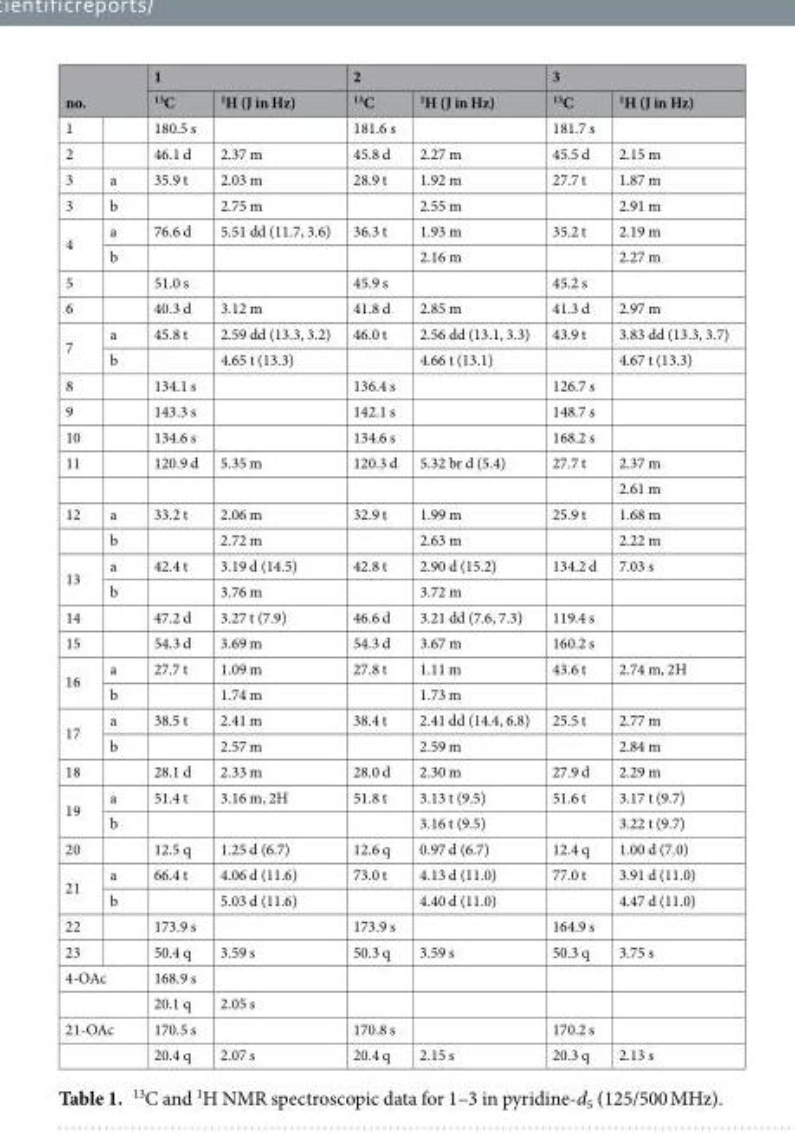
<table><thead><tr><td rowspan="2" colspan="2">no.</td><td colspan="2">1</td><td colspan="2">2</td><td colspan="2">3</td></tr><tr><td rowspan="2"><sup>13</sup>C 180.5 s</td><td rowspan="2"><sup>1</sup>H (J in Hz)</td><td rowspan="2"><sup>13</sup>C 181.6 s</td><td rowspan="2"><sup>1</sup>H (J in Hz)</td><td rowspan="2"><sup>13</sup>C 181.7 s</td><td rowspan="2"><sup>1</sup>H (J in Hz)</td></tr><tr><td>1</td><td></td></tr></thead><tbody><tr><td>2</td><td></td><td>46.1 d</td><td>2.37 m</td><td>45.8 d</td><td>2.27 m</td><td>45.5 d</td><td>2.15 m</td></tr><tr><td>3</td><td>a</td><td>35.9 t</td><td>2.03 m</td><td>28.9 t</td><td>1.92 m</td><td>27.7 t</td><td>1.87 m</td></tr><tr><td>3</td><td>b</td><td></td><td>2.75 m</td><td></td><td>2.55 m</td><td></td><td>2.91 m</td></tr><tr><td rowspan="2">4</td><td>a</td><td>76.6 d</td><td>5.51 dd (11.7, 3.6)</td><td>36.3 t</td><td>1.93 m</td><td>35.2 t</td><td>2.19 m</td></tr><tr><td>b</td><td></td><td></td><td></td><td>2.16 m</td><td></td><td>2.27 m</td></tr><tr><td>5</td><td></td><td>51.0 s</td><td></td><td>45.9 s</td><td></td><td>45.2 s</td><td></td></tr><tr><td>6</td><td></td><td>40.3 d</td><td>3.12 m</td><td>41.8 d</td><td>2.85 m</td><td>41.3 d</td><td>2.97 m</td></tr><tr><td rowspan="2">7</td><td>a</td><td>45.8 t</td><td>2.59 dd (13.3, 3.2)</td><td>46.0 t</td><td>2.56 dd (13.1, 3.3)</td><td>43.9 t</td><td>3.83 dd (13.3, 3.7)</td></tr><tr><td>b</td><td></td><td>4.65 t (13.3)</td><td></td><td>4.66 t (13.1)</td><td></td><td>4.67 t (13.3)</td></tr><tr><td>8</td><td></td><td>134.1 s</td><td></td><td>136.4 s</td><td></td><td>126.7 s</td><td></td></tr><tr><td>9</td><td></td><td>143.3 s</td><td></td><td>142.1 s</td><td></td><td>148.7 s</td><td></td></tr><tr><td>10</td><td></td><td>134.6 s</td><td></td><td>134.6 s</td><td></td><td>168.2 s</td><td></td></tr><tr><td rowspan="2">11</td><td></td><td>120.9 d</td><td>5.35 m</td><td>120.3 d</td><td>5.32 br d (5.4)</td><td>27.7 t</td><td>2.37 m</td></tr><tr><td></td><td></td><td></td><td></td><td></td><td></td><td>2.61 m</td></tr><tr><td rowspan="2">12</td><td>a</td><td>33.2 t</td><td>2.06 m</td><td>32.9 t</td><td>1.99 m</td><td>25.9 t</td><td>1.68 m</td></tr><tr><td>b</td><td></td><td>2.72 m</td><td></td><td>2.63 m</td><td></td><td>2.22 m</td></tr><tr><td rowspan="2">13</td><td>a</td><td>42.4 t</td><td>3.19 d (14.5)</td><td>42.8 t</td><td>2.90 d (15.2)</td><td>134.2 d</td><td>7.03 s</td></tr><tr><td>b</td><td></td><td>3.76 m</td><td></td><td>3.72 m</td><td></td><td></td></tr><tr><td>14</td><td></td><td>47.2 d</td><td>3.27 t (7.9)</td><td>46.6 d</td><td>3.21 dd (7.6, 7.3)</td><td>119.4 s</td><td></td></tr><tr><td>15</td><td></td><td>54.3 d</td><td>3.69 m</td><td>54.3 d</td><td>3.67 m</td><td>160.2 s</td><td></td></tr><tr><td rowspan="2">16</td><td>a</td><td>27.7 t</td><td>1.09 m</td><td>27.8 t</td><td>1.11 m</td><td>43.6 t</td><td>2.74 m, 2H</td></tr><tr><td>b</td><td></td><td>1.74 m</td><td></td><td>1.73 m</td><td></td><td></td></tr><tr><td rowspan="2">17</td><td>a</td><td>38.5 t</td><td>2.41 m</td><td>38.4 t</td><td>2.41 dd (14.4, 6.8)</td><td>25.5 t</td><td>2.77 m</td></tr><tr><td>b</td><td></td><td>2.57 m</td><td></td><td>2.59 m</td><td></td><td>2.84 m</td></tr><tr><td>18</td><td></td><td>28.1 d</td><td>2.33 m</td><td>28.0 d</td><td>2.30 m</td><td>27.9 d</td><td>2.29 m</td></tr><tr><td rowspan="2">19</td><td>a</td><td>51.4 t</td><td>3.16 m, 2H</td><td>51.8 t</td><td>3.13 t (9.5)</td><td>51.6 t</td><td>3.17 t (9.7)</td></tr><tr><td>b</td><td></td><td></td><td></td><td>3.16 t (9.5)</td><td></td><td>3.22 t (9.7)</td></tr><tr><td>20</td><td></td><td>12.5 q</td><td>1.25 d (6.7)</td><td>12.6 q</td><td>0.97 d (6.7)</td><td>12.4 q</td><td>1.00 d (7.0)</td></tr><tr><td rowspan="2">21</td><td>a</td><td>66.4 t</td><td>4.06 d (11.6)</td><td>73.0 t</td><td>4.13 d (11.0)</td><td>77.0 t</td><td>3.91 d (11.0)</td></tr><tr><td>b</td><td></td><td>5.03 d (11.6)</td><td></td><td>4.40 d (11.0)</td><td></td><td>4.47 d (11.0)</td></tr><tr><td>22</td><td></td><td>173.9 s</td><td></td><td>173.9 s</td><td></td><td>164.9 s</td><td></td></tr><tr><td>23</td><td></td><td>50.4 q</td><td>3.59 s</td><td>50.3 q</td><td>3.59 s</td><td>50.3 q</td><td>3.75 s</td></tr><tr><td rowspan="2" colspan="2">4-OAc</td><td>168.9 s</td><td></td><td></td><td></td><td></td><td></td></tr><tr><td>20.1 q</td><td>2.05 s</td><td></td><td></td><td></td><td></td></tr><tr><td rowspan="2" colspan="2">21-OAc</td><td>170.5 s</td><td></td><td>170.8 s</td><td></td><td>170.2 s</td><td></td></tr><tr><td>20.4 q</td><td>2.07 s</td><td>20.4 q</td><td>2.15 s</td><td>20.3 q</td><td>2.13 s</td></tr></tbody></table>